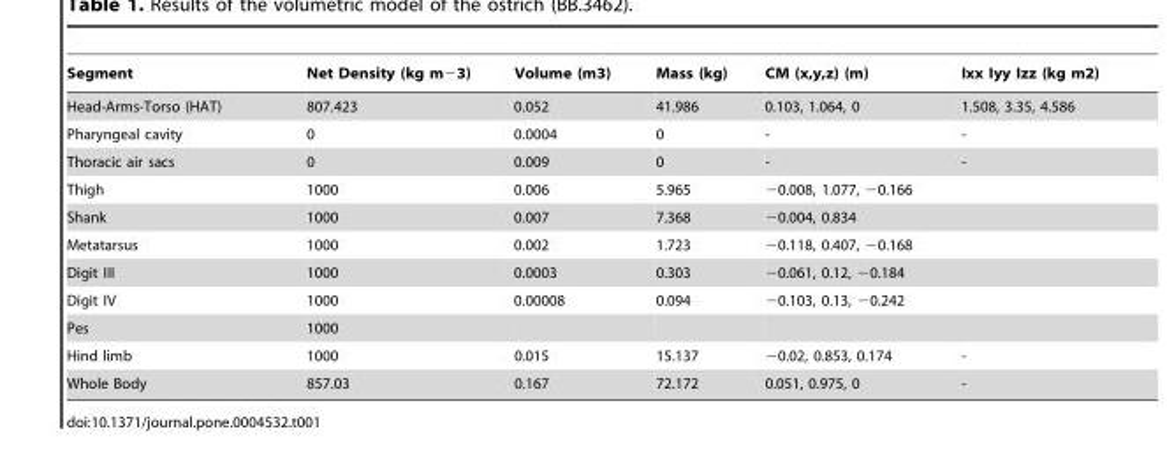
<table><thead><tr><td>Segment</td><td>Net Density (kg m−3)</td><td>Volume (m3)</td><td>Mass (kg)</td><td>CM (x,y,z) (m)</td><td>Ixx Iyy Izz (kg m2)</td></tr></thead><tbody><tr><td>Head-Arms-Torso (HAT)</td><td>807.423</td><td>0.052</td><td>41.986</td><td>0.103, 1.064, 0</td><td>1.508, 3.35, 4.586</td></tr><tr><td>Pharyngeal cavity</td><td>0</td><td>0.0004</td><td>0</td><td>-</td><td>-</td></tr><tr><td>Thoracic air sacs</td><td>0</td><td>0.009</td><td>0</td><td>-</td><td>-</td></tr><tr><td>Thigh</td><td>1000</td><td>0.006</td><td>5.965</td><td>−0.008, 1.077, −0.166</td><td></td></tr><tr><td>Shank</td><td>1000</td><td>0.007</td><td>7.368</td><td>−0.004, 0.834</td><td></td></tr><tr><td>Metatarsus</td><td>1000</td><td>0.002</td><td>1.723</td><td>−0.118, 0.407, −0.168</td><td></td></tr><tr><td>Digit III</td><td>1000</td><td>0.0003</td><td>0.303</td><td>−0.061, 0.12, −0.184</td><td></td></tr><tr><td>Digit IV</td><td>1000</td><td>0.00008</td><td>0.094</td><td>−0.103, 0.13, −0.242</td><td></td></tr><tr><td>Pes</td><td>1000</td><td></td><td></td><td></td><td></td></tr><tr><td>Hind limb</td><td>1000</td><td>0.015</td><td>15.137</td><td>−0.02, 0.853, 0.174</td><td>-</td></tr><tr><td>Whole Body</td><td>857.03</td><td>0.167</td><td>72.172</td><td>0.051, 0.975, 0</td><td>-</td></tr></tbody></table>